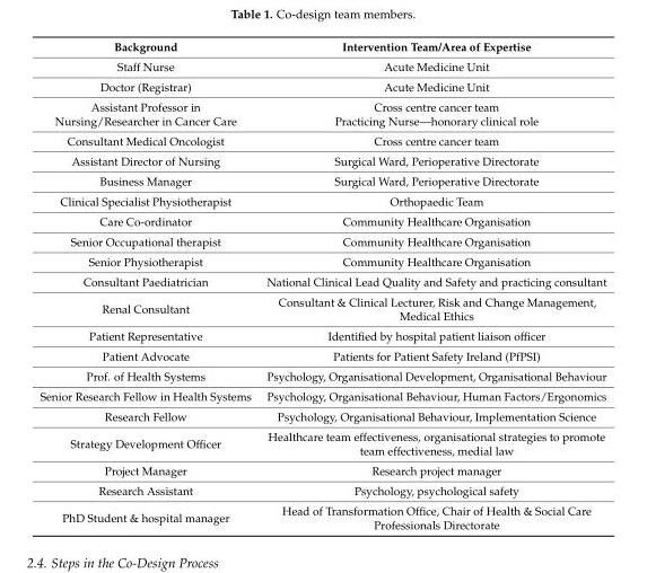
<table><thead><tr><td>Background</td><td>Intervention Team/Area of Expertise</td></tr></thead><tbody><tr><td>Staff Nurse</td><td>Acute Medicine Unit</td></tr><tr><td>Doctor (Registrar)</td><td>Acute Medicine Unit</td></tr><tr><td>Assistant Professor in Nursing/Researcher in Cancer Care</td><td>Cross centre cancer team Practicing Nurse—honorary clinical role</td></tr><tr><td>Consultant Medical Oncologist</td><td>Cross centre cancer team</td></tr><tr><td>Assistant Director of Nursing</td><td>Surgical Ward, Perioperative Directorate</td></tr><tr><td>Business Manager</td><td>Surgical Ward, Perioperative Directorate</td></tr><tr><td>Clinical Specialist Physiotherapist</td><td>Orthopaedic Team</td></tr><tr><td>Care Co-ordinator</td><td>Community Healthcare Organisation</td></tr><tr><td>Senior Occupational therapist</td><td>Community Healthcare Organisation</td></tr><tr><td>Senior Physiotherapist</td><td>Community Healthcare Organisation</td></tr><tr><td>Consultant Paediatrician</td><td>National Clinical Lead Quality and Safety and practicing consultant</td></tr><tr><td>Renal Consultant</td><td>Consultant &amp; Clinical Lecturer, Risk and Change Management, Medical Ethics</td></tr><tr><td>Patient Representative</td><td>Identified by hospital patient liaison officer</td></tr><tr><td>Patient Advocate</td><td>Patients for Patient Safety Ireland (PfPSI)</td></tr><tr><td>Prof. of Health Systems</td><td>Psychology, Organisational Development, Organisational Behaviour</td></tr><tr><td>Senior Research Fellow in Health Systems</td><td>Psychology, Organisational Behaviour, Human Factors/Ergonomics</td></tr><tr><td>Research Fellow</td><td>Psychology, Organisational Behaviour, Implementation Science</td></tr><tr><td>Strategy Development Officer</td><td>Healthcare team effectiveness, organisational strategies to promote team effectiveness, medial law</td></tr><tr><td>Project Manager</td><td>Research project manager</td></tr><tr><td>Research Assistant</td><td>Psychology, psychological safety</td></tr><tr><td>PhD Student &amp; hospital manager</td><td>Head of Transformation Office, Chair of Health &amp; Social Care Professionals Directorate</td></tr></tbody></table>